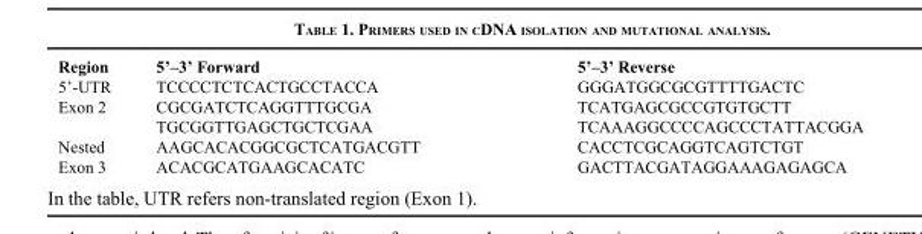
<table><thead><tr><td>Region</td><td>5’–3’ Forward</td><td>5’–3’ Reverse</td></tr></thead><tbody><tr><td>5’-UTR</td><td>TCCCCTCTCACTGCCTACCA</td><td>GGGATGGCGCGTTTTGACTC</td></tr><tr><td rowspan="2">Exon 2</td><td>CGCGATCTCAGGTTTGCGA</td><td>TCATGAGCGCCGTGTGCTT</td></tr><tr><td>TGCGGTTGAGCTGCTCGAA</td><td>TCAAAGGCCCCAGCCCTATTACGGA</td></tr><tr><td>Nested</td><td>AAGCACACGGCGCTCATGACGTT</td><td>CACCTCGCAGGTCAGTCTGT</td></tr><tr><td>Exon 3</td><td>ACACGCATGAAGCACATC</td><td>GACTTACGATAGGAAAGAGAGCA</td></tr></tbody></table>